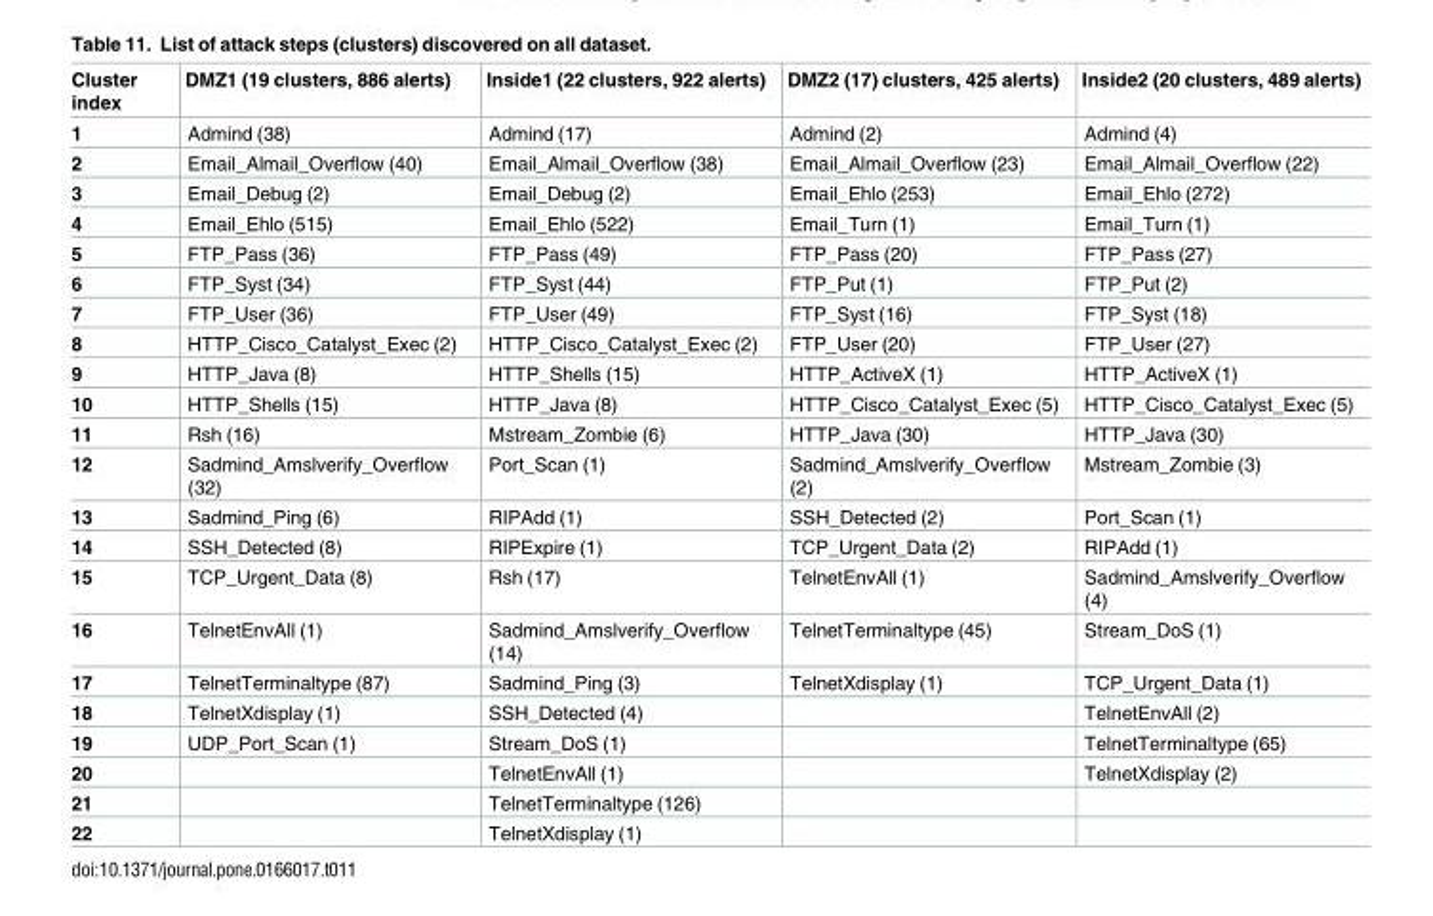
<table><thead><tr><td>Cluster index</td><td>DMZ1 (19 clusters, 886 alerts)</td><td>Inside1 (22 clusters, 922 alerts)</td><td>DMZ2 (17) clusters, 425 alerts)</td><td>Inside2 (20 clusters, 489 alerts)</td></tr></thead><tbody><tr><td>1</td><td>Admind (38)</td><td>Admind (17)</td><td>Admind (2)</td><td>Admind (4)</td></tr><tr><td>2</td><td>Email_Almail_Overflow (40)</td><td>Email_Almail_Overflow (38)</td><td>Email_Almail_Overflow (23)</td><td>Email_Almail_Overflow (22)</td></tr><tr><td>3</td><td>Email_Debug (2)</td><td>Email_Debug (2)</td><td>Email_Ehlo (253)</td><td>Email_Ehlo (272)</td></tr><tr><td>4</td><td>Email_Ehlo (515)</td><td>Email_Ehlo (522)</td><td>Email_Turn (1)</td><td>Email_Turn (1)</td></tr><tr><td>5</td><td>FTP_Pass (36)</td><td>FTP_Pass (49)</td><td>FTP_Pass (20)</td><td>FTP_Pass (27)</td></tr><tr><td>6</td><td>FTP_Syst (34)</td><td>FTP_Syst (44)</td><td>FTP_Put (1)</td><td>FTP_Put (2)</td></tr><tr><td>7</td><td>FTP_User (36)</td><td>FTP_User (49)</td><td>FTP_Syst (16)</td><td>FTP_Syst (18)</td></tr><tr><td>8</td><td>HTTP_Cisco_Catalyst_Exec (2)</td><td>HTTP_Cisco_Catalyst_Exec (2)</td><td>FTP_User (20)</td><td>FTP_User (27)</td></tr><tr><td>9</td><td>HTTP_Java (8)</td><td>HTTP_Shells (15)</td><td>HTTP_ActiveX (1)</td><td>HTTP_ActiveX (1)</td></tr><tr><td>10</td><td>HTTP_Shells (15)</td><td>HTTP_Java (8)</td><td>HTTP_Cisco_Catalyst_Exec (5)</td><td>HTTP_Cisco_Catalyst_Exec (5)</td></tr><tr><td>11</td><td>Rsh (16)</td><td>Mstream_Zombie (6)</td><td>HTTP_Java (30)</td><td>HTTP_Java (30)</td></tr><tr><td>12</td><td>Sadmind_Amslverify_Overflow (32)</td><td>Port_Scan (1)</td><td>Sadmind_Amslverify_Overflow (2)</td><td>Mstream_Zombie (3)</td></tr><tr><td>13</td><td>Sadmind_Ping (6)</td><td>RIPAdd (1)</td><td>SSH_Detected (2)</td><td>Port_Scan (1)</td></tr><tr><td>14</td><td>SSH_Detected (8)</td><td>RIPExpire (1)</td><td>TCP_Urgent_Data (2)</td><td>RIPAdd (1)</td></tr><tr><td>15</td><td>TCP_Urgent_Data (8)</td><td>Rsh (17)</td><td>TelnetEnvAll (1)</td><td>Sadmind_Amslverify_Overflow (4)</td></tr><tr><td>16</td><td>TelnetEnvAll (1)</td><td>Sadmind_Amslverify_Overflow (14)</td><td>TelnetTerminaltype (45)</td><td>Stream_DoS (1)</td></tr><tr><td>17</td><td>TelnetTerminaltype (87)</td><td>Sadmind_Ping (3)</td><td>TelnetXdisplay (1)</td><td>TCP_Urgent_Data (1)</td></tr><tr><td>18</td><td>TelnetXdisplay (1)</td><td>SSH_Detected (4)</td><td></td><td>TelnetEnvAll (2)</td></tr><tr><td>19</td><td>UDP_Port_Scan (1)</td><td>Stream_DoS (1)</td><td></td><td>TelnetTerminaltype (65)</td></tr><tr><td>20</td><td></td><td>TelnetEnvAll (1)</td><td></td><td>TelnetXdisplay (2)</td></tr><tr><td>21</td><td></td><td>TelnetTerminaltype (126)</td><td></td><td></td></tr><tr><td>22</td><td></td><td>TelnetXdisplay (1)</td><td></td><td></td></tr></tbody></table>